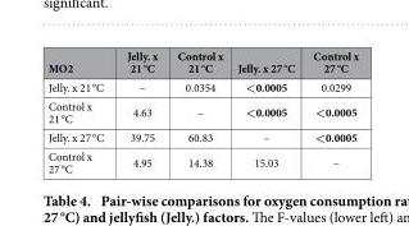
<table><thead><tr><td>MO2</td><td>Jelly. x 21 °C</td><td>Control x 21 °C</td><td>Jelly. x 27 °C</td><td>Control x 27 °C</td></tr></thead><tbody><tr><td>Jelly. x 21 °C</td><td>–</td><td>0.0354</td><td>&lt;0.0005</td><td>0.0299</td></tr><tr><td>Control x 21 °C</td><td>4.63</td><td>–</td><td>&lt;0.0005</td><td>&lt;0.0005</td></tr><tr><td>Jelly. x 27 °C</td><td>39.75</td><td>60.83</td><td>–</td><td>&lt;0.0005</td></tr><tr><td>Control x 27 °C</td><td>4.95</td><td>14.38</td><td>15.03</td><td>–</td></tr></tbody></table>